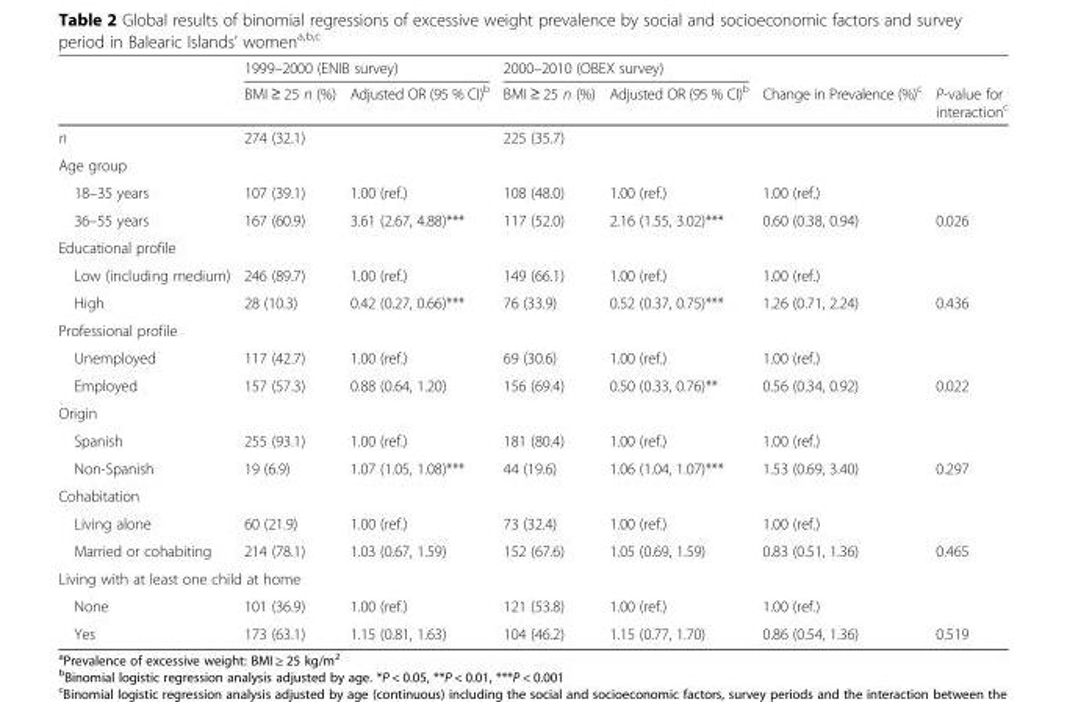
<table><thead><tr><td rowspan="2"></td><td colspan="2">1999–2000 (ENIB survey)</td><td colspan="2">2000–2010 (OBEX survey)</td><td rowspan="2">Change in Prevalence (%)<sup>c</sup></td><td rowspan="2">P-value for interaction<sup>c</sup></td></tr><tr><td>BMI ≥ 25 n (%)</td><td>Adjusted OR (95 % CI)<sup>b</sup></td><td>BMI ≥ 25 n (%)</td><td>Adjusted OR (95 % CI)<sup>b</sup></td></tr></thead><tbody><tr><td>n</td><td>274 (32.1)</td><td></td><td>225 (35.7)</td><td></td><td></td><td></td></tr><tr><td colspan="7">Age group</td></tr><tr><td>18–35 years</td><td>107 (39.1)</td><td>1.00 (ref.)</td><td>108 (48.0)</td><td>1.00 (ref.)</td><td>1.00 (ref.)</td><td></td></tr><tr><td>36–55 years</td><td>167 (60.9)</td><td>3.61 (2.67, 4.88)***</td><td>117 (52.0)</td><td>2.16 (1.55, 3.02)***</td><td>0.60 (0.38, 0.94)</td><td>0.026</td></tr><tr><td colspan="7">Educational profile</td></tr><tr><td>Low (including medium)</td><td>246 (89.7)</td><td>1.00 (ref.)</td><td>149 (66.1)</td><td>1.00 (ref.)</td><td>1.00 (ref.)</td><td></td></tr><tr><td>High</td><td>28 (10.3)</td><td>0.42 (0.27, 0.66)***</td><td>76 (33.9)</td><td>0.52 (0.37, 0.75)***</td><td>1.26 (0.71, 2.24)</td><td>0.436</td></tr><tr><td colspan="7">Professional profile</td></tr><tr><td>Unemployed</td><td>117 (42.7)</td><td>1.00 (ref.)</td><td>69 (30.6)</td><td>1.00 (ref.)</td><td>1.00 (ref.)</td><td></td></tr><tr><td>Employed</td><td>157 (57.3)</td><td>0.88 (0.64, 1.20)</td><td>156 (69.4)</td><td>0.50 (0.33, 0.76)**</td><td>0.56 (0.34, 0.92)</td><td>0.022</td></tr><tr><td colspan="7">Origin</td></tr><tr><td>Spanish</td><td>255 (93.1)</td><td>1.00 (ref.)</td><td>181 (80.4)</td><td>1.00 (ref.)</td><td>1.00 (ref.)</td><td></td></tr><tr><td>Non-Spanish</td><td>19 (6.9)</td><td>1.07 (1.05, 1.08)***</td><td>44 (19.6)</td><td>1.06 (1.04, 1.07)***</td><td>1.53 (0.69, 3.40)</td><td>0.297</td></tr><tr><td colspan="7">Cohabitation</td></tr><tr><td>Living alone</td><td>60 (21.9)</td><td>1.00 (ref.)</td><td>73 (32.4)</td><td>1.00 (ref.)</td><td>1.00 (ref.)</td><td></td></tr><tr><td>Married or cohabiting</td><td>214 (78.1)</td><td>1.03 (0.67, 1.59)</td><td>152 (67.6)</td><td>1.05 (0.69, 1.59)</td><td>0.83 (0.51, 1.36)</td><td>0.465</td></tr><tr><td colspan="7">Living with at least one child at home</td></tr><tr><td>None</td><td>101 (36.9)</td><td>1.00 (ref.)</td><td>121 (53.8)</td><td>1.00 (ref.)</td><td>1.00 (ref.)</td><td></td></tr><tr><td>Yes</td><td>173 (63.1)</td><td>1.15 (0.81, 1.63)</td><td>104 (46.2)</td><td>1.15 (0.77, 1.70)</td><td>0.86 (0.54, 1.36)</td><td>0.519</td></tr></tbody></table>